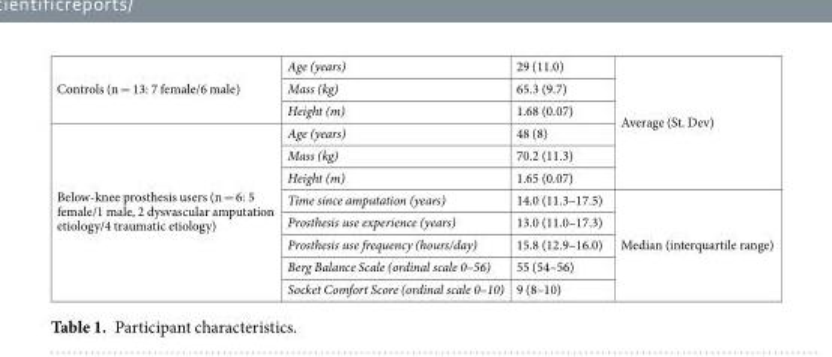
<table><tbody><tr><td rowspan="3">Controls (n = 13: 7 female/6 male)</td><td>Age (years)</td><td>29 (11.0)</td><td rowspan="6">Average (St. Dev)</td></tr><tr><td>Mass (kg)</td><td>65.3 (9.7)</td></tr><tr><td>Height (m)</td><td>1.68 (0.07)</td></tr><tr><td rowspan="8">Below-knee prosthesis users (n = 6: 5 female/1 male, 2 dysvascular amputation etiology/4 traumatic etiology)</td><td>Age (years)</td><td>48 (8)</td></tr><tr><td>Mass (kg)</td><td>70.2 (11.3)</td></tr><tr><td>Height (m)</td><td>1.65 (0.07)</td></tr><tr><td>Time since amputation (years)</td><td>14.0 (11.3–17.5)</td><td rowspan="5">Median (interquartile range)</td></tr><tr><td>Prosthesis use experience (years)</td><td>13.0 (11.0–17.3)</td></tr><tr><td>Prosthesis use frequency (hours/day)</td><td>15.8 (12.9–16.0)</td></tr><tr><td>Berg Balance Scale (ordinal scale 0–56)</td><td>55 (54–56)</td></tr><tr><td>Socket Comfort Score (ordinal scale 0–10)</td><td>9 (8–10)</td></tr></tbody></table>